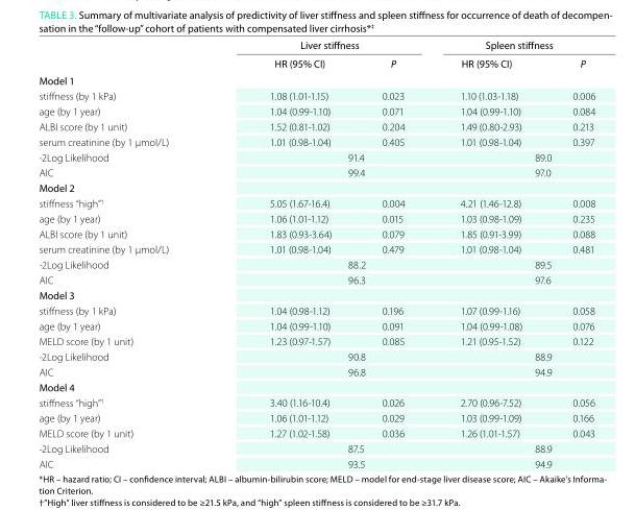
<table><thead><tr><td rowspan="2"></td><td colspan="2">Liver stiffness</td><td colspan="2">Spleen stiffness</td></tr><tr><td>HR (95% CI)</td><td>P</td><td>HR (95% CI)</td><td>P</td></tr></thead><tbody><tr><td colspan="5">Model 1</td></tr><tr><td>stiffness (by 1 kPa)</td><td>1.08 (1.01-1.15)</td><td>0.023</td><td>1.10 (1.03-1.18)</td><td>0.006</td></tr><tr><td>age (by 1 year)</td><td>1.04 (0.99-1.10)</td><td>0.071</td><td>1.04 (0.99-1.10)</td><td>0.084</td></tr><tr><td>ALBI score (by 1 unit)</td><td>1.52 (0.81-1.02)</td><td>0.204</td><td>1.49 (0.80-2.93)</td><td>0.213</td></tr><tr><td>serum creatinine (by 1 μmol/L)</td><td>1.01 (0.98-1.04)</td><td>0.405</td><td>1.01 (0.98-1.04)</td><td>0.397</td></tr><tr><td>-2Log Likelihood</td><td colspan="2">91.4</td><td colspan="2">89.0</td></tr><tr><td>AIC</td><td colspan="2">99.4</td><td colspan="2">97.0</td></tr><tr><td colspan="5">Model 2</td></tr><tr><td>stiffness “high”<sup>†</sup></td><td>5.05 (1.67-16.4)</td><td>0.004</td><td>4.21 (1.46-12.8)</td><td>0.008</td></tr><tr><td>age (by 1 year)</td><td>1.06 (1.01-1.12)</td><td>0.015</td><td>1.03 (0.98-1.09)</td><td>0.235</td></tr><tr><td>ALBI score (by 1 unit)</td><td>1.83 (0.93-3.64)</td><td>0.079</td><td>1.85 (0.91-3.99)</td><td>0.088</td></tr><tr><td>serum creatinine (by 1 μmol/L)</td><td>1.01 (0.98-1.04)</td><td>0.479</td><td>1.01 (0.98-1.04)</td><td>0.481</td></tr><tr><td>-2Log Likelihood</td><td colspan="2">88.2</td><td colspan="2">89.5</td></tr><tr><td>AIC</td><td colspan="2">96.3</td><td colspan="2">97.6</td></tr><tr><td colspan="5">Model 3</td></tr><tr><td>stiffness (by 1 kPa)</td><td>1.04 (0.98-1.12)</td><td>0.196</td><td>1.07 (0.99-1.16)</td><td>0.058</td></tr><tr><td>age (by 1 year)</td><td>1.04 (0.99-1.10)</td><td>0.091</td><td>1.04 (0.99-1.08)</td><td>0.076</td></tr><tr><td>MELD score (by 1 unit)</td><td>1.23 (0.97-1.57)</td><td>0.085</td><td>1.21 (0.95-1.52)</td><td>0.122</td></tr><tr><td>-2Log Likelihood</td><td colspan="2">90.8</td><td colspan="2">88.9</td></tr><tr><td>AIC</td><td colspan="2">96.8</td><td colspan="2">94.9</td></tr><tr><td colspan="5">Model 4</td></tr><tr><td>stiffness “high”<sup>†</sup></td><td>3.40 (1.16-10.4)</td><td>0.026</td><td>2.70 (0.96-7.52)</td><td>0.056</td></tr><tr><td>age (by 1 year)</td><td>1.06 (1.01-1.12)</td><td>0.029</td><td>1.03 (0.99-1.09)</td><td>0.166</td></tr><tr><td>MELD score (by 1 unit)</td><td>1.27 (1.02-1.58)</td><td>0.036</td><td>1.26 (1.01-1.57)</td><td>0.043</td></tr><tr><td>-2Log Likelihood</td><td colspan="2">87.5</td><td colspan="2">88.9</td></tr><tr><td>AIC</td><td colspan="2">93.5</td><td colspan="2">94.9</td></tr></tbody></table>